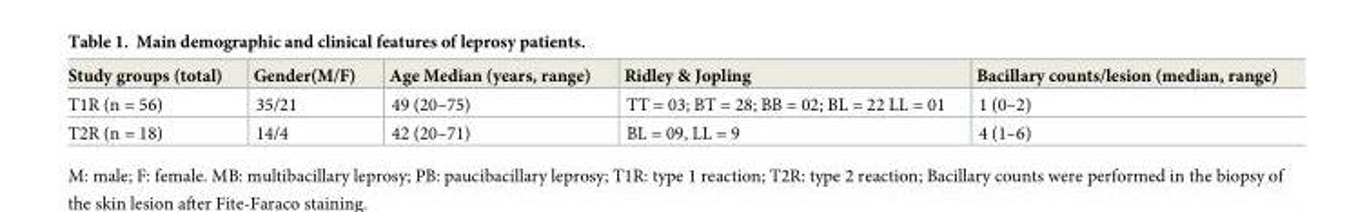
<table><thead><tr><td>Study groups (total)</td><td>Gender(M/F)</td><td>Age Median (years, range)</td><td>Ridley &amp; Jopling</td><td>Bacillary counts/lesion (median, range)</td></tr></thead><tbody><tr><td>T1R (n = 56)</td><td>35/21</td><td>49 (20–75)</td><td>TT = 03; BT = 28; BB = 02; BL = 22 LL = 01</td><td>1 (0–2)</td></tr><tr><td>T2R (n = 18)</td><td>14/4</td><td>42 (20–71)</td><td>BL = 09, LL = 9</td><td>4 (1–6)</td></tr></tbody></table>